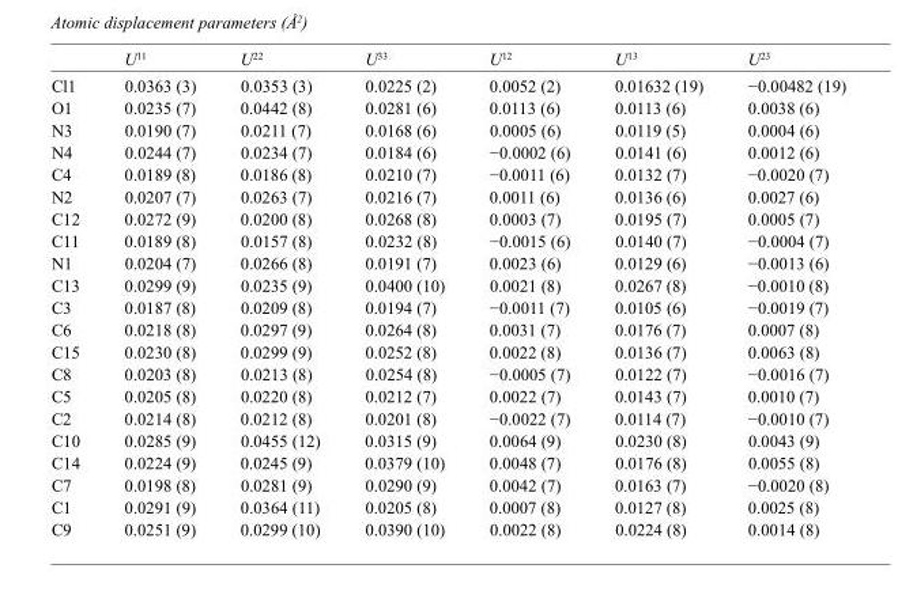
<table><thead><tr><td></td><td>U<sup>11</sup></td><td>U<sup>22</sup></td><td>U<sup>33</sup></td><td>U<sup>12</sup></td><td>U<sup>13</sup></td><td>U<sup>23</sup></td></tr></thead><tbody><tr><td>Cl1</td><td>0.0363 (3)</td><td>0.0353 (3)</td><td>0.0225 (2)</td><td>0.0052 (2)</td><td>0.01632 (19)</td><td>−0.00482 (19)</td></tr><tr><td>O1</td><td>0.0235 (7)</td><td>0.0442 (8)</td><td>0.0281 (6)</td><td>0.0113 (6)</td><td>0.0113 (6)</td><td>0.0038 (6)</td></tr><tr><td>N3</td><td>0.0190 (7)</td><td>0.0211 (7)</td><td>0.0168 (6)</td><td>0.0005 (6)</td><td>0.0119 (5)</td><td>0.0004 (6)</td></tr><tr><td>N4</td><td>0.0244 (7)</td><td>0.0234 (7)</td><td>0.0184 (6)</td><td>−0.0002 (6)</td><td>0.0141 (6)</td><td>0.0012 (6)</td></tr><tr><td>C4</td><td>0.0189 (8)</td><td>0.0186 (8)</td><td>0.0210 (7)</td><td>−0.0011 (6)</td><td>0.0132 (7)</td><td>−0.0020 (7)</td></tr><tr><td>N2</td><td>0.0207 (7)</td><td>0.0263 (7)</td><td>0.0216 (7)</td><td>0.0011 (6)</td><td>0.0136 (6)</td><td>0.0027 (6)</td></tr><tr><td>C12</td><td>0.0272 (9)</td><td>0.0200 (8)</td><td>0.0268 (8)</td><td>0.0003 (7)</td><td>0.0195 (7)</td><td>0.0005 (7)</td></tr><tr><td>C11</td><td>0.0189 (8)</td><td>0.0157 (8)</td><td>0.0232 (8)</td><td>−0.0015 (6)</td><td>0.0140 (7)</td><td>−0.0004 (7)</td></tr><tr><td>N1</td><td>0.0204 (7)</td><td>0.0266 (8)</td><td>0.0191 (7)</td><td>0.0023 (6)</td><td>0.0129 (6)</td><td>−0.0013 (6)</td></tr><tr><td>C13</td><td>0.0299 (9)</td><td>0.0235 (9)</td><td>0.0400 (10)</td><td>0.0021 (8)</td><td>0.0267 (8)</td><td>−0.0010 (8)</td></tr><tr><td>C3</td><td>0.0187 (8)</td><td>0.0209 (8)</td><td>0.0194 (7)</td><td>−0.0011 (7)</td><td>0.0105 (6)</td><td>−0.0019 (7)</td></tr><tr><td>C6</td><td>0.0218 (8)</td><td>0.0297 (9)</td><td>0.0264 (8)</td><td>0.0031 (7)</td><td>0.0176 (7)</td><td>0.0007 (8)</td></tr><tr><td>C15</td><td>0.0230 (8)</td><td>0.0299 (9)</td><td>0.0252 (8)</td><td>0.0022 (8)</td><td>0.0136 (7)</td><td>0.0063 (8)</td></tr><tr><td>C8</td><td>0.0203 (8)</td><td>0.0213 (8)</td><td>0.0254 (8)</td><td>−0.0005 (7)</td><td>0.0122 (7)</td><td>−0.0016 (7)</td></tr><tr><td>C5</td><td>0.0205 (8)</td><td>0.0220 (8)</td><td>0.0212 (7)</td><td>0.0022 (7)</td><td>0.0143 (7)</td><td>0.0010 (7)</td></tr><tr><td>C2</td><td>0.0214 (8)</td><td>0.0212 (8)</td><td>0.0201 (8)</td><td>−0.0022 (7)</td><td>0.0114 (7)</td><td>−0.0010 (7)</td></tr><tr><td>C10</td><td>0.0285 (9)</td><td>0.0455 (12)</td><td>0.0315 (9)</td><td>0.0064 (9)</td><td>0.0230 (8)</td><td>0.0043 (9)</td></tr><tr><td>C14</td><td>0.0224 (9)</td><td>0.0245 (9)</td><td>0.0379 (10)</td><td>0.0048 (7)</td><td>0.0176 (8)</td><td>0.0055 (8)</td></tr><tr><td>C7</td><td>0.0198 (8)</td><td>0.0281 (9)</td><td>0.0290 (9)</td><td>0.0042 (7)</td><td>0.0163 (7)</td><td>−0.0020 (8)</td></tr><tr><td>C1</td><td>0.0291 (9)</td><td>0.0364 (11)</td><td>0.0205 (8)</td><td>0.0007 (8)</td><td>0.0127 (8)</td><td>0.0025 (8)</td></tr><tr><td>C9</td><td>0.0251 (9)</td><td>0.0299 (10)</td><td>0.0390 (10)</td><td>0.0022 (8)</td><td>0.0224 (8)</td><td>0.0014 (8)</td></tr></tbody></table>